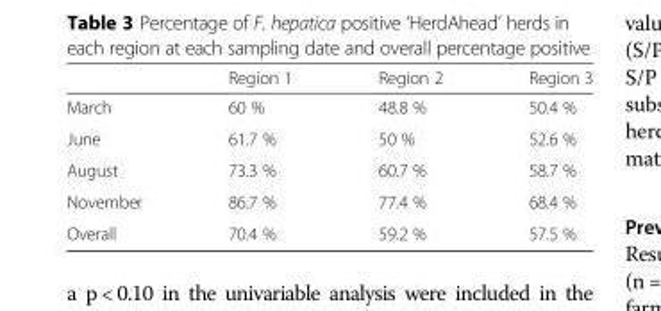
<table><thead><tr><td></td><td>Region 1</td><td>Region 2</td><td>Region 3</td></tr></thead><tbody><tr><td>March</td><td>60 %</td><td>48.8 %</td><td>50.4 %</td></tr><tr><td>June</td><td>61.7 %</td><td>50 %</td><td>52.6 %</td></tr><tr><td>August</td><td>73.3 %</td><td>60.7 %</td><td>58.7 %</td></tr><tr><td>November</td><td>86.7 %</td><td>77.4 %</td><td>68.4 %</td></tr><tr><td>Overall</td><td>70.4 %</td><td>59.2 %</td><td>57.5 %</td></tr></tbody></table>